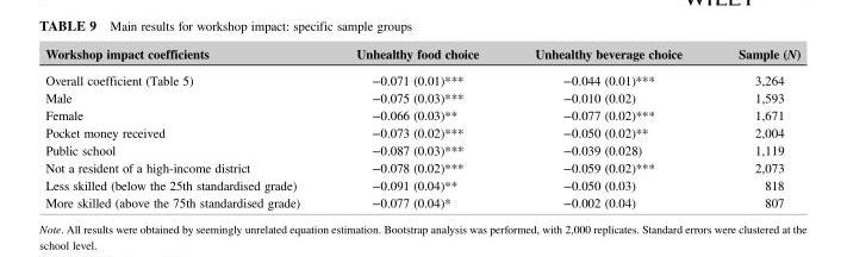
<table><thead><tr><td>Workshop impact coefficients</td><td>Unhealthy food choice</td><td>Unhealthy beverage choice</td><td>Sample (N)</td></tr></thead><tbody><tr><td>Overall coefficient (Table 5)</td><td>−0.071 (0.01)***</td><td>−0.044 (0.01)***</td><td>3,264</td></tr><tr><td>Male</td><td>−0.075 (0.03)***</td><td>−0.010 (0.02)</td><td>1,593</td></tr><tr><td>Female</td><td>−0.066 (0.03)**</td><td>−0.077 (0.02)***</td><td>1,671</td></tr><tr><td>Pocket money received</td><td>−0.073 (0.02)***</td><td>−0.050 (0.02)**</td><td>2,004</td></tr><tr><td>Public school</td><td>−0.087 (0.03)***</td><td>−0.039 (0.028)</td><td>1,119</td></tr><tr><td>Not a resident of a high‐income district</td><td>−0.078 (0.02)***</td><td>−0.059 (0.02)***</td><td>2,073</td></tr><tr><td>Less skilled (below the 25th standardised grade)</td><td>−0.091 (0.04)**</td><td>−0.050 (0.03)</td><td>818</td></tr><tr><td>More skilled (above the 75th standardised grade)</td><td>−0.077 (0.04)*</td><td>−0.002 (0.04)</td><td>807</td></tr></tbody></table>